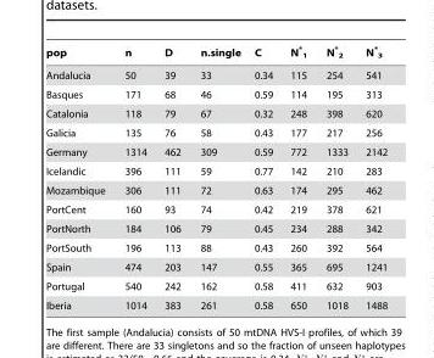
<table><thead><tr><td>pop</td><td>n</td><td>D</td><td>n.single</td><td>C</td><td>N* <sub>1</sub></td><td>N* <sub>2</sub></td><td>N* <sub>3</sub></td></tr></thead><tbody><tr><td>Andalucia</td><td>50</td><td>39</td><td>33</td><td>0.34</td><td>115</td><td>254</td><td>541</td></tr><tr><td>Basques</td><td>171</td><td>68</td><td>46</td><td>0.59</td><td>114</td><td>195</td><td>313</td></tr><tr><td>Catalonia</td><td>118</td><td>79</td><td>67</td><td>0.32</td><td>248</td><td>398</td><td>620</td></tr><tr><td>Galicia</td><td>135</td><td>76</td><td>58</td><td>0.43</td><td>177</td><td>217</td><td>256</td></tr><tr><td>Germany</td><td>1314</td><td>462</td><td>309</td><td>0.59</td><td>772</td><td>1333</td><td>2142</td></tr><tr><td>Icelandic</td><td>396</td><td>111</td><td>59</td><td>0.77</td><td>142</td><td>210</td><td>283</td></tr><tr><td>Mozambique</td><td>306</td><td>111</td><td>72</td><td>0.63</td><td>174</td><td>295</td><td>462</td></tr><tr><td>PortCent</td><td>160</td><td>93</td><td>74</td><td>0.42</td><td>219</td><td>378</td><td>621</td></tr><tr><td>PortNorth</td><td>184</td><td>106</td><td>79</td><td>0.45</td><td>234</td><td>288</td><td>342</td></tr><tr><td>PortSouth</td><td>196</td><td>113</td><td>88</td><td>0.43</td><td>260</td><td>392</td><td>564</td></tr><tr><td>Spain</td><td>474</td><td>203</td><td>147</td><td>0.55</td><td>365</td><td>695</td><td>1241</td></tr><tr><td>Portugal</td><td>540</td><td>242</td><td>162</td><td>0.58</td><td>411</td><td>632</td><td>903</td></tr><tr><td>Iberia</td><td>1014</td><td>383</td><td>261</td><td>0.58</td><td>650</td><td>1018</td><td>1488</td></tr></tbody></table>